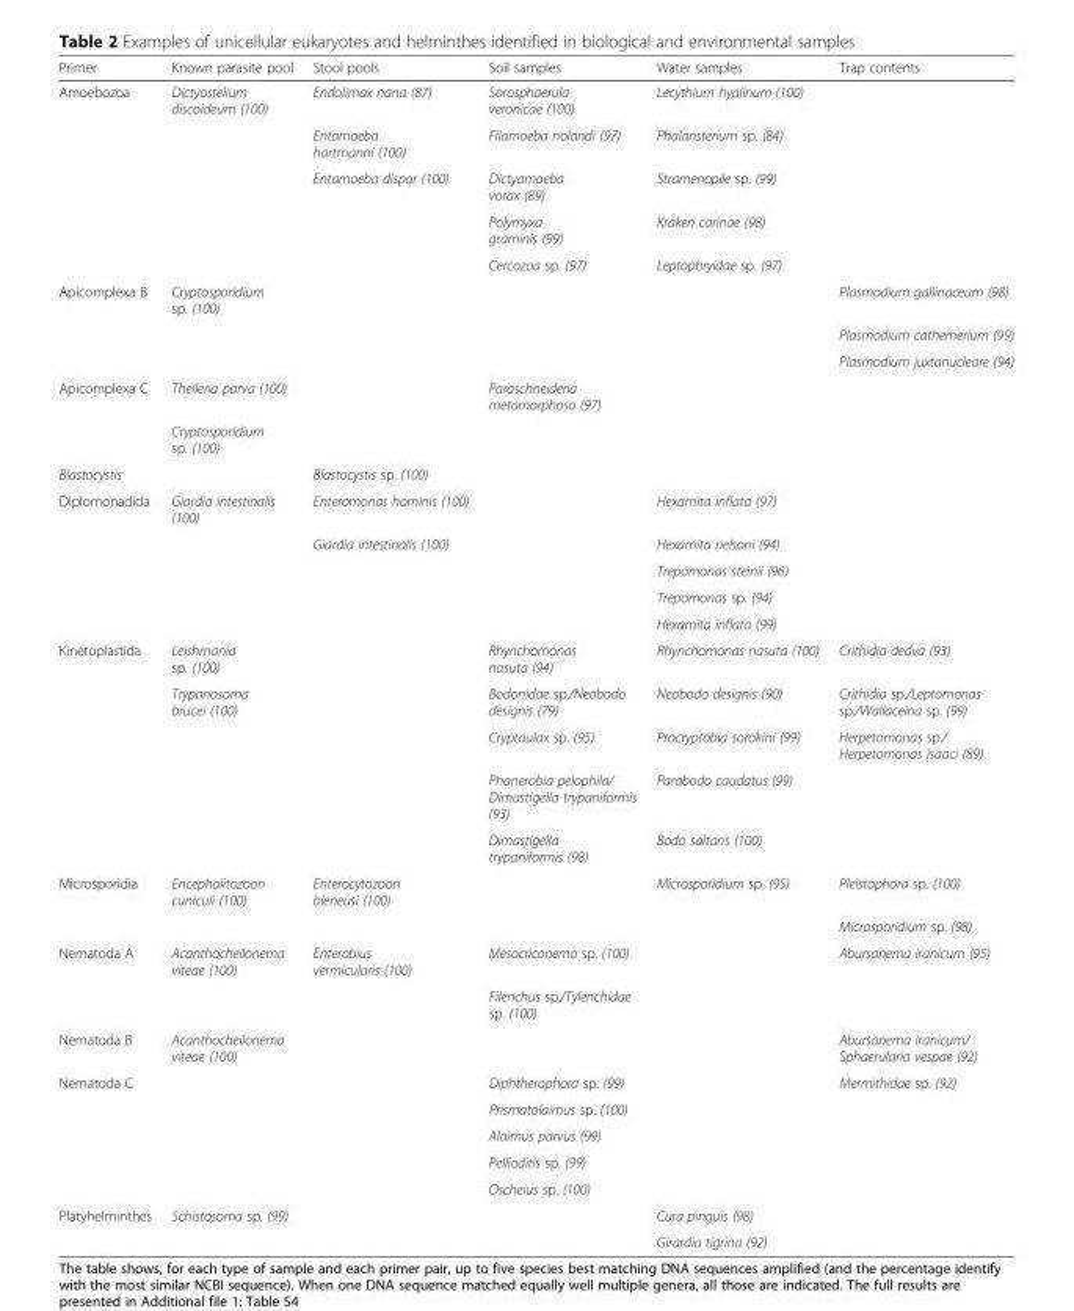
<table><thead><tr><td>Primer</td><td>Known parasite pool</td><td>Stool pools</td><td>Soil samples</td><td>Water samples</td><td>Trap contents</td></tr></thead><tbody><tr><td rowspan="5">Amoebozoa</td><td>Dictyostelium discoideum (100)</td><td>Endolimax nana (87)</td><td>Sorosphaerula veronicae (100)</td><td>Lecythium hyalinum (100)</td><td></td></tr><tr><td></td><td>Entamoeba hartmanni (100)</td><td>Filamoeba nolandi (97)</td><td>Phalansterium sp. (84)</td><td></td></tr><tr><td></td><td>Entamoeba dispar (100)</td><td>Dictyamoeba vorax (89)</td><td>Stramenopile sp. (99)</td><td></td></tr><tr><td></td><td></td><td>Polymyxa graminis (99)</td><td>Kraken carinae (98)</td><td></td></tr><tr><td></td><td></td><td>Cercozoa sp. (97)</td><td>Leptophryidae sp. (97)</td><td></td></tr><tr><td rowspan="3">Apicomplexa B</td><td>Cryptosporidium sp. (100)</td><td></td><td></td><td></td><td>Plasmodium gallinaceum (98)</td></tr><tr><td></td><td></td><td></td><td></td><td>Plasmodium cathemerium (99)</td></tr><tr><td></td><td></td><td></td><td></td><td>Plasmodium juxtanucleare (94)</td></tr><tr><td rowspan="2">Apicomplexa C</td><td>Theileria parva (100)</td><td></td><td>Paraschneideria metamorphosa (97)</td><td></td><td></td></tr><tr><td>Cryptosporidium sp. (100)</td><td></td><td></td><td></td><td></td></tr><tr><td>Blastocystis</td><td></td><td>Blastocystis sp. (100)</td><td></td><td></td><td></td></tr><tr><td rowspan="5">Diplomonadida</td><td>Giardia intestinalis (100)</td><td>Enteromonas hominis (100)</td><td></td><td>Hexamita inflata (97)</td><td></td></tr><tr><td></td><td>Giardia intestinalis (100)</td><td></td><td>Hexamita nelsoni (94)</td><td></td></tr><tr><td></td><td></td><td></td><td>Trepomonas steinii (96)</td><td></td></tr><tr><td></td><td></td><td></td><td>Trepomonas sp. (94)</td><td></td></tr><tr><td></td><td></td><td></td><td>Hexamita inflata (99)</td><td></td></tr><tr><td rowspan="5">Kinetoplastida</td><td>Leishmania sp. (100)</td><td></td><td>Rhynchomonas nasuta (94)</td><td>Rhynchomonas nasuta (100)</td><td>Crithidia dedva (93)</td></tr><tr><td>Trypanosoma brucei (100)</td><td></td><td>Bodonidae sp./Neobodo designis (79)</td><td>Neobodo designis (90)</td><td>Crithidia sp./Leptomonas sp./Wallaceina sp. (99)</td></tr><tr><td></td><td></td><td>Cryptaulax sp. (95)</td><td>Procryptobia sorokini (99)</td><td>Herpetomonas sp./ Herpetomonas isaaci (89)</td></tr><tr><td></td><td></td><td>Phanerobia pelophila/ Dimastigella trypaniformis (93)</td><td>Parabodo caudatus (99)</td><td></td></tr><tr><td></td><td></td><td>Dimastigella trypaniformis (98)</td><td>Bodo saltans (100)</td><td></td></tr><tr><td rowspan="2">Microsporidia</td><td>Encephalitozoon cuniculi (100)</td><td>Enterocytozoon bieneusi (100)</td><td></td><td>Microsporidium sp. (95)</td><td>Pleistophora sp. (100)</td></tr><tr><td></td><td></td><td></td><td></td><td>Microsporidium sp. (98)</td></tr><tr><td rowspan="2">Nematoda A</td><td>Acanthocheilonema viteae (100)</td><td>Enterobius vermicularis (100)</td><td>Mesocriconema sp. (100)</td><td></td><td>Abursanema iranicum (95)</td></tr><tr><td></td><td></td><td>Filenchus sp./Tylenchidae sp. (100)</td><td></td><td></td></tr><tr><td>Nematoda B</td><td>Acanthocheilonema viteae (100)</td><td></td><td></td><td></td><td>Abursanema iranicum/ Sphaerularia vespae (92)</td></tr><tr><td rowspan="5">Nematoda C</td><td></td><td></td><td>Diphtherophora sp. (99)</td><td></td><td>Mermithidae sp. (92)</td></tr><tr><td></td><td></td><td>Prismatolaimus sp. (100)</td><td></td><td></td></tr><tr><td></td><td></td><td>Alaimus parvus (99)</td><td></td><td></td></tr><tr><td></td><td></td><td>Pellioditis sp. (99)</td><td></td><td></td></tr><tr><td></td><td></td><td>Oscheius sp. (100)</td><td></td><td></td></tr><tr><td rowspan="2">Platyhelminthes</td><td>Schistosoma sp. (99)</td><td></td><td></td><td>Cura pinguis (98)</td><td></td></tr><tr><td></td><td></td><td></td><td>Girardia tigrina (92)</td><td></td></tr></tbody></table>